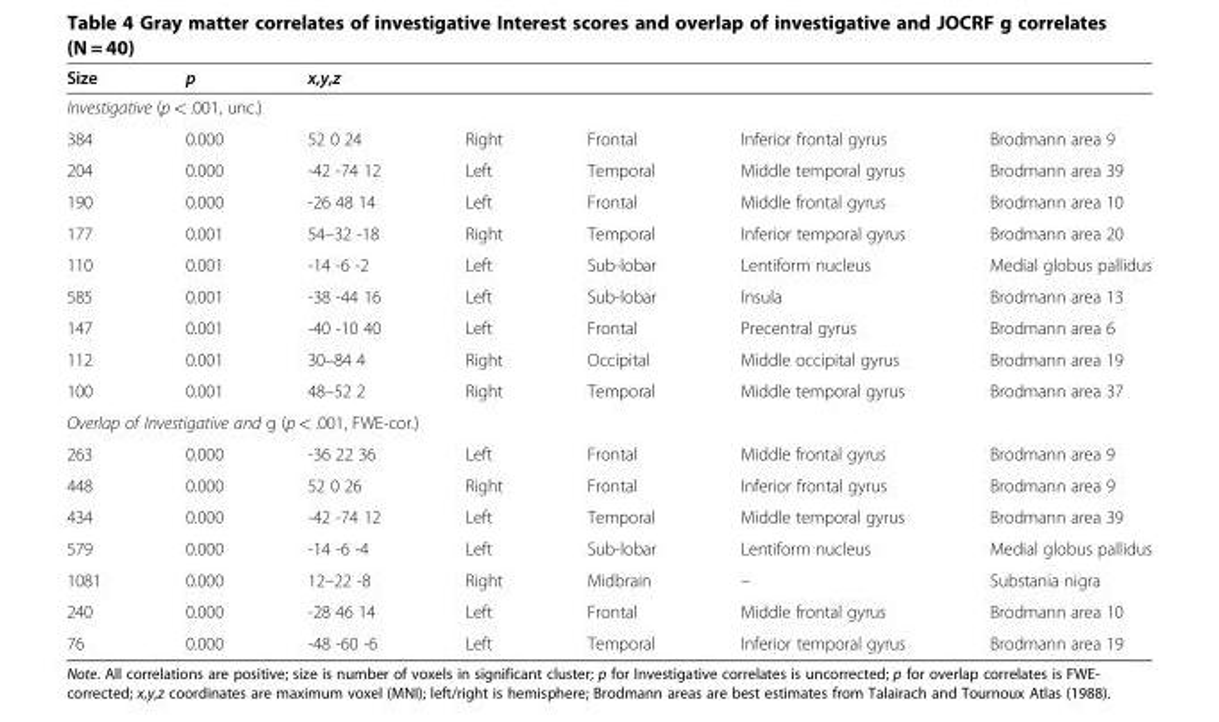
<table><thead><tr><td>Size</td><td>p</td><td colspan="5">x,y,z</td></tr><tr><td colspan="7">Investigative (p &lt; .001, unc.)</td></tr><tr><td>384</td><td>0.000</td><td>52 0 24</td><td>Right</td><td>Frontal</td><td>Inferior frontal gyrus</td><td>Brodmann area 9</td></tr></thead><tbody><tr><td>204</td><td>0.000</td><td>-42 -74 12</td><td>Left</td><td>Temporal</td><td>Middle temporal gyrus</td><td>Brodmann area 39</td></tr><tr><td>190</td><td>0.000</td><td>-26 48 14</td><td>Left</td><td>Frontal</td><td>Middle frontal gyrus</td><td>Brodmann area 10</td></tr><tr><td>177</td><td>0.001</td><td>54–32 -18</td><td>Right</td><td>Temporal</td><td>Inferior temporal gyrus</td><td>Brodmann area 20</td></tr><tr><td>110</td><td>0.001</td><td>-14 -6 -2</td><td>Left</td><td>Sub-lobar</td><td>Lentiform nucleus</td><td>Medial globus pallidus</td></tr><tr><td>585</td><td>0.001</td><td>-38 -44 16</td><td>Left</td><td>Sub-lobar</td><td>Insula</td><td>Brodmann area 13</td></tr><tr><td>147</td><td>0.001</td><td>-40 -10 40</td><td>Left</td><td>Frontal</td><td>Precentral gyrus</td><td>Brodmann area 6</td></tr><tr><td>112</td><td>0.001</td><td>30–84 4</td><td>Right</td><td>Occipital</td><td>Middle occipital gyrus</td><td>Brodmann area 19</td></tr><tr><td>100</td><td>0.001</td><td>48–52 2</td><td>Right</td><td>Temporal</td><td>Middle temporal gyrus</td><td>Brodmann area 37</td></tr><tr><td colspan="7">Overlap of Investigative and g (p &lt; .001, FWE-cor.)</td></tr><tr><td>263</td><td>0.000</td><td>-36 22 36</td><td>Left</td><td>Frontal</td><td>Middle frontal gyrus</td><td>Brodmann area 9</td></tr><tr><td>448</td><td>0.000</td><td>52 0 26</td><td>Right</td><td>Frontal</td><td>Inferior frontal gyrus</td><td>Brodmann area 9</td></tr><tr><td>434</td><td>0.000</td><td>-42 -74 12</td><td>Left</td><td>Temporal</td><td>Middle temporal gyrus</td><td>Brodmann area 39</td></tr><tr><td>579</td><td>0.000</td><td>-14 -6 -4</td><td>Left</td><td>Sub-lobar</td><td>Lentiform nucleus</td><td>Medial globus pallidus</td></tr><tr><td>1081</td><td>0.000</td><td>12–22 -8</td><td>Right</td><td>Midbrain</td><td>–</td><td>Substania nigra</td></tr><tr><td>240</td><td>0.000</td><td>-28 46 14</td><td>Left</td><td>Frontal</td><td>Middle frontal gyrus</td><td>Brodmann area 10</td></tr><tr><td>76</td><td>0.000</td><td>-48 -60 -6</td><td>Left</td><td>Temporal</td><td>Inferior temporal gyrus</td><td>Brodmann area 19</td></tr></tbody></table>